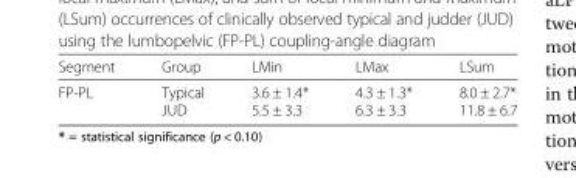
<table><thead><tr><td>Segment</td><td>Group</td><td>LMin</td><td>LMax</td><td>LSum</td></tr></thead><tbody><tr><td>FP-PL</td><td>Typical JUD</td><td>3.6 ± 1.4* 5.5 ± 3.3</td><td>4.3 ± 1.3* 6.3 ± 3.3</td><td>8.0 ± 2.7* 11.8 ± 6.7</td></tr></tbody></table>